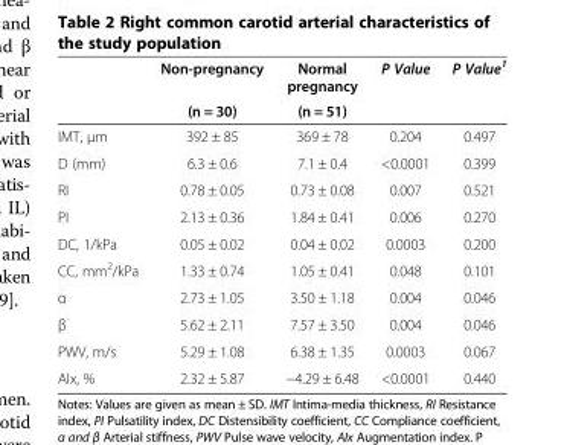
<table><thead><tr><td rowspan="2"></td><td rowspan="2">Non-pregnancy (n = 30)</td><td rowspan="2">Normal pregnancy (n = 51)</td><td rowspan="2">P Value</td><td rowspan="2">P Value<sup>1</sup></td></tr><tr></tr></thead><tbody><tr><td>IMT, μm</td><td>392 ± 85</td><td>369 ± 78</td><td>0.204</td><td>0.497</td></tr><tr><td>D (mm)</td><td>6.3 ± 0.6</td><td>7.1 ± 0.4</td><td>&lt;0.0001</td><td>0.399</td></tr><tr><td>RI</td><td>0.78 ± 0.05</td><td>0.73 ± 0.08</td><td>0.007</td><td>0.521</td></tr><tr><td>PI</td><td>2.13 ± 0.36</td><td>1.84 ± 0.41</td><td>0.006</td><td>0.270</td></tr><tr><td>DC, 1/kPa</td><td>0.05 ± 0.02</td><td>0.04 ± 0.02</td><td>0.0003</td><td>0.200</td></tr><tr><td>CC, mm<sup>2</sup>/kPa</td><td>1.33 ± 0.74</td><td>1.05 ± 0.41</td><td>0.048</td><td>0.101</td></tr><tr><td>α</td><td>2.73 ± 1.05</td><td>3.50 ± 1.18</td><td>0.004</td><td>0.046</td></tr><tr><td>β</td><td>5.62 ± 2.11</td><td>7.57 ± 3.50</td><td>0.004</td><td>0.046</td></tr><tr><td>PWV, m/s</td><td>5.29 ± 1.08</td><td>6.38 ± 1.35</td><td>0.0003</td><td>0.067</td></tr><tr><td>AIx, %</td><td>2.32 ± 5.87</td><td>−4.29 ± 6.48</td><td>&lt;0.0001</td><td>0.440</td></tr></tbody></table>